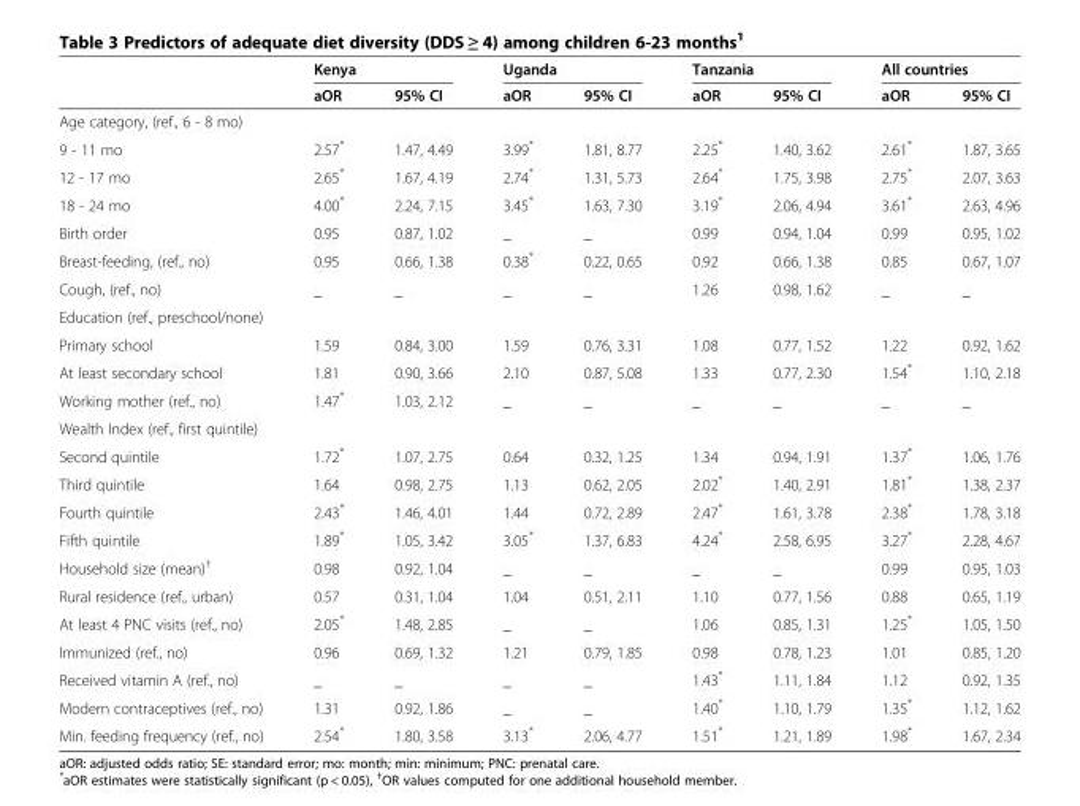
<table><thead><tr><td rowspan="2"></td><td colspan="2">Kenya</td><td colspan="2">Uganda</td><td colspan="2">Tanzania</td><td colspan="2">All countries</td></tr><tr><td>aOR</td><td>95% CI</td><td>aOR</td><td>95% CI</td><td>aOR</td><td>95% CI</td><td>aOR</td><td>95% CI</td></tr></thead><tbody><tr><td colspan="9">Age category, (ref., 6 - 8 mo)</td></tr><tr><td>9 - 11 mo</td><td>2.57*</td><td>1.47, 4.49</td><td>3.99*</td><td>1.81, 8.77</td><td>2.25*</td><td>1.40, 3.62</td><td>2.61*</td><td>1.87, 3.65</td></tr><tr><td>12 - 17 mo</td><td>2.65*</td><td>1.67, 4.19</td><td>2.74*</td><td>1.31, 5.73</td><td>2.64*</td><td>1.75, 3.98</td><td>2.75*</td><td>2.07, 3.63</td></tr><tr><td>18 - 24 mo</td><td>4.00*</td><td>2.24, 7.15</td><td>3.45*</td><td>1.63, 7.30</td><td>3.19*</td><td>2.06, 4.94</td><td>3.61*</td><td>2.63, 4.96</td></tr><tr><td>Birth order</td><td>0.95</td><td>0.87, 1.02</td><td>_</td><td>_</td><td>0.99</td><td>0.94, 1.04</td><td>0.99</td><td>0.95, 1.02</td></tr><tr><td>Breast-feeding, (ref., no)</td><td>0.95</td><td>0.66, 1.38</td><td>0.38*</td><td>0.22, 0.65</td><td>0.92</td><td>0.66, 1.38</td><td>0.85</td><td>0.67, 1.07</td></tr><tr><td>Cough, (ref., no)</td><td>_</td><td>_</td><td>_</td><td>_</td><td>1.26</td><td>0.98, 1.62</td><td>_</td><td>_</td></tr><tr><td colspan="9">Education (ref., preschool/none)</td></tr><tr><td>Primary school</td><td>1.59</td><td>0.84, 3.00</td><td>1.59</td><td>0.76, 3.31</td><td>1.08</td><td>0.77, 1.52</td><td>1.22</td><td>0.92, 1.62</td></tr><tr><td>At least secondary school</td><td>1.81</td><td>0.90, 3.66</td><td>2.10</td><td>0.87, 5.08</td><td>1.33</td><td>0.77, 2.30</td><td>1.54*</td><td>1.10, 2.18</td></tr><tr><td>Working mother (ref., no)</td><td>1.47*</td><td>1.03, 2.12</td><td>_</td><td>_</td><td>_</td><td>_</td><td>_</td><td>_</td></tr><tr><td colspan="9">Wealth Index (ref., first quintile)</td></tr><tr><td>Second quintile</td><td>1.72*</td><td>1.07, 2.75</td><td>0.64</td><td>0.32, 1.25</td><td>1.34</td><td>0.94, 1.91</td><td>1.37*</td><td>1.06, 1.76</td></tr><tr><td>Third quintile</td><td>1.64</td><td>0.98, 2.75</td><td>1.13</td><td>0.62, 2.05</td><td>2.02*</td><td>1.40, 2.91</td><td>1.81*</td><td>1.38, 2.37</td></tr><tr><td>Fourth quintile</td><td>2.43*</td><td>1.46, 4.01</td><td>1.44</td><td>0.72, 2.89</td><td>2.47*</td><td>1.61, 3.78</td><td>2.38*</td><td>1.78, 3.18</td></tr><tr><td>Fifth quintile</td><td>1.89*</td><td>1.05, 3.42</td><td>3.05*</td><td>1.37, 6.83</td><td>4.24*</td><td>2.58, 6.95</td><td>3.27*</td><td>2.28, 4.67</td></tr><tr><td>Household size (mean)<sup>†</sup></td><td>0.98</td><td>0.92, 1.04</td><td>_</td><td>_</td><td>_</td><td>_</td><td>0.99</td><td>0.95, 1.03</td></tr><tr><td>Rural residence (ref., urban)</td><td>0.57</td><td>0.31, 1.04</td><td>1.04</td><td>0.51, 2.11</td><td>1.10</td><td>0.77, 1.56</td><td>0.88</td><td>0.65, 1.19</td></tr><tr><td>At least 4 PNC visits (ref., no)</td><td>2.05*</td><td>1.48, 2.85</td><td>_</td><td>_</td><td>1.06</td><td>0.85, 1.31</td><td>1.25*</td><td>1.05, 1.50</td></tr><tr><td>Immunized (ref., no)</td><td>0.96</td><td>0.69, 1.32</td><td>1.21</td><td>0.79, 1.85</td><td>0.98</td><td>0.78, 1.23</td><td>1.01</td><td>0.85, 1.20</td></tr><tr><td>Received vitamin A (ref., no)</td><td>_</td><td>_</td><td>_</td><td>_</td><td>1.43*</td><td>1.11, 1.84</td><td>1.12</td><td>0.92, 1.35</td></tr><tr><td>Modern contraceptives (ref., no)</td><td>1.31</td><td>0.92, 1.86</td><td>_</td><td>_</td><td>1.40*</td><td>1.10, 1.79</td><td>1.35*</td><td>1.12, 1.62</td></tr><tr><td>Min. feeding frequency (ref., no)</td><td>2.54*</td><td>1.80, 3.58</td><td>3.13*</td><td>2.06, 4.77</td><td>1.51*</td><td>1.21, 1.89</td><td>1.98*</td><td>1.67, 2.34</td></tr></tbody></table>